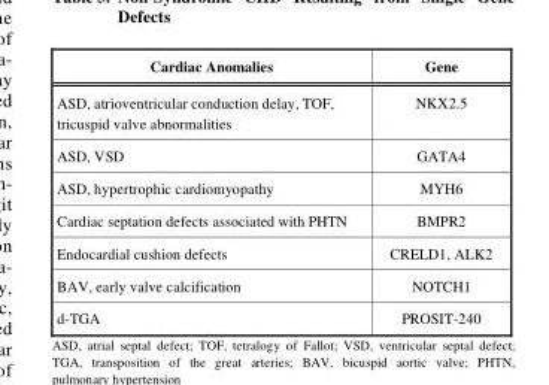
<table><thead><tr><td>Cardiac Anomalies</td><td>Gene</td></tr></thead><tbody><tr><td>ASD, atrioventricular conduction delay, TOF, tricuspid valve abnormalities</td><td>NKX2.5</td></tr><tr><td>ASD, VSD</td><td>GATA4</td></tr><tr><td>ASD, hypertrophic cardiomyopathy</td><td>MYH6</td></tr><tr><td>Cardiac septation defects associated with PHTN</td><td>BMPR2</td></tr><tr><td>Endocardial cushion defects</td><td>CRELD1, ALK2</td></tr><tr><td>BAV, early valve calcification</td><td>NOTCH1</td></tr><tr><td>d-TGA</td><td>PROSIT-240</td></tr></tbody></table>